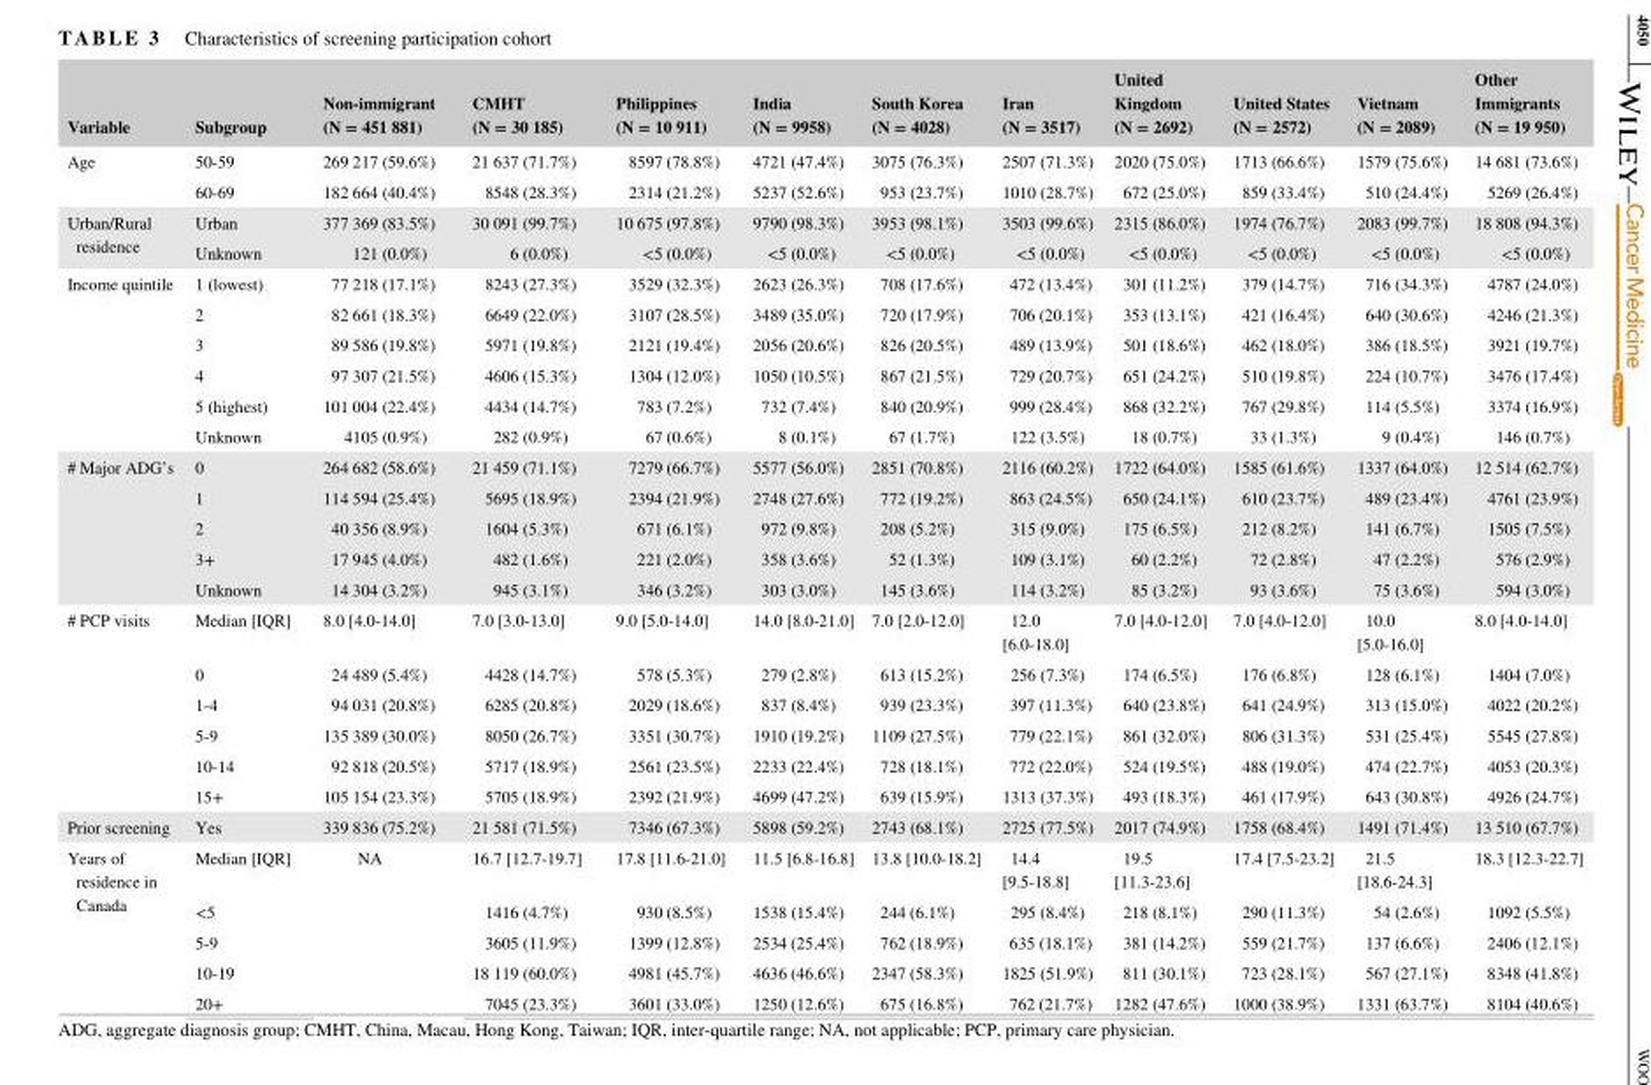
<table><thead><tr><td>Variable</td><td>Subgroup</td><td>Non- immigrant (N = 451 881)</td><td>CMHT (N = 30 185)</td><td>Philippines (N = 10 911)</td><td>India (N = 9958)</td><td>South Korea (N = 4028)</td><td>Iran (N = 3517)</td><td>United Kingdom (N = 2692)</td><td>United States (N = 2572)</td><td>Vietnam (N = 2089)</td><td>Other Immigrants (N = 19 950)</td></tr></thead><tbody><tr><td rowspan="2">Age</td><td>50- 59</td><td>269 217 (59.6%)</td><td>21 637 (71.7%)</td><td>8597 (78.8%)</td><td>4721 (47.4%)</td><td>3075 (76.3%)</td><td>2507 (71.3%)</td><td>2020 (75.0%)</td><td>1713 (66.6%)</td><td>1579 (75.6%)</td><td>14 681 (73.6%)</td></tr><tr><td>60- 69</td><td>182 664 (40.4%)</td><td>8548 (28.3%)</td><td>2314 (21.2%)</td><td>5237 (52.6%)</td><td>953 (23.7%)</td><td>1010 (28.7%)</td><td>672 (25.0%)</td><td>859 (33.4%)</td><td>510 (24.4%)</td><td>5269 (26.4%)</td></tr><tr><td rowspan="2">Urban/Rural residence</td><td>Urban</td><td>377 369 (83.5%)</td><td>30 091 (99.7%)</td><td>10 675 (97.8%)</td><td>9790 (98.3%)</td><td>3953 (98.1%)</td><td>3503 (99.6%)</td><td>2315 (86.0%)</td><td>1974 (76.7%)</td><td>2083 (99.7%)</td><td>18 808 (94.3%)</td></tr><tr><td>Unknown</td><td>121 (0.0%)</td><td>6 (0.0%)</td><td>&lt;5 (0.0%)</td><td>&lt;5 (0.0%)</td><td>&lt;5 (0.0%)</td><td>&lt;5 (0.0%)</td><td>&lt;5 (0.0%)</td><td>&lt;5 (0.0%)</td><td>&lt;5 (0.0%)</td><td>&lt;5 (0.0%)</td></tr><tr><td rowspan="6">Income quintile</td><td>1 (lowest)</td><td>77 218 (17.1%)</td><td>8243 (27.3%)</td><td>3529 (32.3%)</td><td>2623 (26.3%)</td><td>708 (17.6%)</td><td>472 (13.4%)</td><td>301 (11.2%)</td><td>379 (14.7%)</td><td>716 (34.3%)</td><td>4787 (24.0%)</td></tr><tr><td>2</td><td>82 661 (18.3%)</td><td>6649 (22.0%)</td><td>3107 (28.5%)</td><td>3489 (35.0%)</td><td>720 (17.9%)</td><td>706 (20.1%)</td><td>353 (13.1%)</td><td>421 (16.4%)</td><td>640 (30.6%)</td><td>4246 (21.3%)</td></tr><tr><td>3</td><td>89 586 (19.8%)</td><td>5971 (19.8%)</td><td>2121 (19.4%)</td><td>2056 (20.6%)</td><td>826 (20.5%)</td><td>489 (13.9%)</td><td>501 (18.6%)</td><td>462 (18.0%)</td><td>386 (18.5%)</td><td>3921 (19.7%)</td></tr><tr><td>4</td><td>97 307 (21.5%)</td><td>4606 (15.3%)</td><td>1304 (12.0%)</td><td>1050 (10.5%)</td><td>867 (21.5%)</td><td>729 (20.7%)</td><td>651 (24.2%)</td><td>510 (19.8%)</td><td>224 (10.7%)</td><td>3476 (17.4%)</td></tr><tr><td>5 (highest)</td><td>101 004 (22.4%)</td><td>4434 (14.7%)</td><td>783 (7.2%)</td><td>732 (7.4%)</td><td>840 (20.9%)</td><td>999 (28.4%)</td><td>868 (32.2%)</td><td>767 (29.8%)</td><td>114 (5.5%)</td><td>3374 (16.9%)</td></tr><tr><td>Unknown</td><td>4105 (0.9%)</td><td>282 (0.9%)</td><td>67 (0.6%)</td><td>8 (0.1%)</td><td>67 (1.7%)</td><td>122 (3.5%)</td><td>18 (0.7%)</td><td>33 (1.3%)</td><td>9 (0.4%)</td><td>146 (0.7%)</td></tr><tr><td rowspan="5"># Major ADG’s</td><td>0</td><td>264 682 (58.6%)</td><td>21 459 (71.1%)</td><td>7279 (66.7%)</td><td>5577 (56.0%)</td><td>2851 (70.8%)</td><td>2116 (60.2%)</td><td>1722 (64.0%)</td><td>1585 (61.6%)</td><td>1337 (64.0%)</td><td>12 514 (62.7%)</td></tr><tr><td>1</td><td>114 594 (25.4%)</td><td>5695 (18.9%)</td><td>2394 (21.9%)</td><td>2748 (27.6%)</td><td>772 (19.2%)</td><td>863 (24.5%)</td><td>650 (24.1%)</td><td>610 (23.7%)</td><td>489 (23.4%)</td><td>4761 (23.9%)</td></tr><tr><td>2</td><td>40 356 (8.9%)</td><td>1604 (5.3%)</td><td>671 (6.1%)</td><td>972 (9.8%)</td><td>208 (5.2%)</td><td>315 (9.0%)</td><td>175 (6.5%)</td><td>212 (8.2%)</td><td>141 (6.7%)</td><td>1505 (7.5%)</td></tr><tr><td>3+</td><td>17 945 (4.0%)</td><td>482 (1.6%)</td><td>221 (2.0%)</td><td>358 (3.6%)</td><td>52 (1.3%)</td><td>109 (3.1%)</td><td>60 (2.2%)</td><td>72 (2.8%)</td><td>47 (2.2%)</td><td>576 (2.9%)</td></tr><tr><td>Unknown</td><td>14 304 (3.2%)</td><td>945 (3.1%)</td><td>346 (3.2%)</td><td>303 (3.0%)</td><td>145 (3.6%)</td><td>114 (3.2%)</td><td>85 (3.2%)</td><td>93 (3.6%)</td><td>75 (3.6%)</td><td>594 (3.0%)</td></tr><tr><td rowspan="6"># PCP visits</td><td>Median [IQR]</td><td>8.0 [4.0- 14.0]</td><td>7.0 [3.0- 13.0]</td><td>9.0 [5.0- 14.0]</td><td>14.0 [8.0- 21.0]</td><td>7.0 [2.0- 12.0]</td><td>12.0 [6.0- 18.0]</td><td>7.0 [4.0- 12.0]</td><td>7.0 [4.0- 12.0]</td><td>10.0 [5.0- 16.0]</td><td>8.0 [4.0- 14.0]</td></tr><tr><td>0</td><td>24 489 (5.4%)</td><td>4428 (14.7%)</td><td>578 (5.3%)</td><td>279 (2.8%)</td><td>613 (15.2%)</td><td>256 (7.3%)</td><td>174 (6.5%)</td><td>176 (6.8%)</td><td>128 (6.1%)</td><td>1404 (7.0%)</td></tr><tr><td>1- 4</td><td>94 031 (20.8%)</td><td>6285 (20.8%)</td><td>2029 (18.6%)</td><td>837 (8.4%)</td><td>939 (23.3%)</td><td>397 (11.3%)</td><td>640 (23.8%)</td><td>641 (24.9%)</td><td>313 (15.0%)</td><td>4022 (20.2%)</td></tr><tr><td>5- 9</td><td>135 389 (30.0%)</td><td>8050 (26.7%)</td><td>3351 (30.7%)</td><td>1910 (19.2%)</td><td>1109 (27.5%)</td><td>779 (22.1%)</td><td>861 (32.0%)</td><td>806 (31.3%)</td><td>531 (25.4%)</td><td>5545 (27.8%)</td></tr><tr><td>10- 14</td><td>92 818 (20.5%)</td><td>5717 (18.9%)</td><td>2561 (23.5%)</td><td>2233 (22.4%)</td><td>728 (18.1%)</td><td>772 (22.0%)</td><td>524 (19.5%)</td><td>488 (19.0%)</td><td>474 (22.7%)</td><td>4053 (20.3%)</td></tr><tr><td>15+</td><td>105 154 (23.3%)</td><td>5705 (18.9%)</td><td>2392 (21.9%)</td><td>4699 (47.2%)</td><td>639 (15.9%)</td><td>1313 (37.3%)</td><td>493 (18.3%)</td><td>461 (17.9%)</td><td>643 (30.8%)</td><td>4926 (24.7%)</td></tr><tr><td>Prior screening</td><td>Yes</td><td>339 836 (75.2%)</td><td>21 581 (71.5%)</td><td>7346 (67.3%)</td><td>5898 (59.2%)</td><td>2743 (68.1%)</td><td>2725 (77.5%)</td><td>2017 (74.9%)</td><td>1758 (68.4%)</td><td>1491 (71.4%)</td><td>13 510 (67.7%)</td></tr><tr><td rowspan="5">Years of residence in Canada</td><td>Median [IQR]</td><td rowspan="5">NA</td><td>16.7 [12.7- 19.7]</td><td>17.8 [11.6- 21.0]</td><td>11.5 [6.8- 16.8]</td><td>13.8 [10.0- 18.2]</td><td>14.4 [9.5- 18.8]</td><td>19.5 [11.3- 23.6]</td><td>17.4 [7.5- 23.2]</td><td>21.5 [18.6- 24.3]</td><td>18.3 [12.3- 22.7]</td></tr><tr><td>&lt;5</td><td>1416 (4.7%)</td><td>930 (8.5%)</td><td>1538 (15.4%)</td><td>244 (6.1%)</td><td>295 (8.4%)</td><td>218 (8.1%)</td><td>290 (11.3%)</td><td>54 (2.6%)</td><td>1092 (5.5%)</td></tr><tr><td>5- 9</td><td>3605 (11.9%)</td><td>1399 (12.8%)</td><td>2534 (25.4%)</td><td>762 (18.9%)</td><td>635 (18.1%)</td><td>381 (14.2%)</td><td>559 (21.7%)</td><td>137 (6.6%)</td><td>2406 (12.1%)</td></tr><tr><td>10- 19</td><td>18 119 (60.0%)</td><td>4981 (45.7%)</td><td>4636 (46.6%)</td><td>2347 (58.3%)</td><td>1825 (51.9%)</td><td>811 (30.1%)</td><td>723 (28.1%)</td><td>567 (27.1%)</td><td>8348 (41.8%)</td></tr><tr><td>20+</td><td>7045 (23.3%)</td><td>3601 (33.0%)</td><td>1250 (12.6%)</td><td>675 (16.8%)</td><td>762 (21.7%)</td><td>1282 (47.6%)</td><td>1000 (38.9%)</td><td>1331 (63.7%)</td><td>8104 (40.6%)</td></tr></tbody></table>